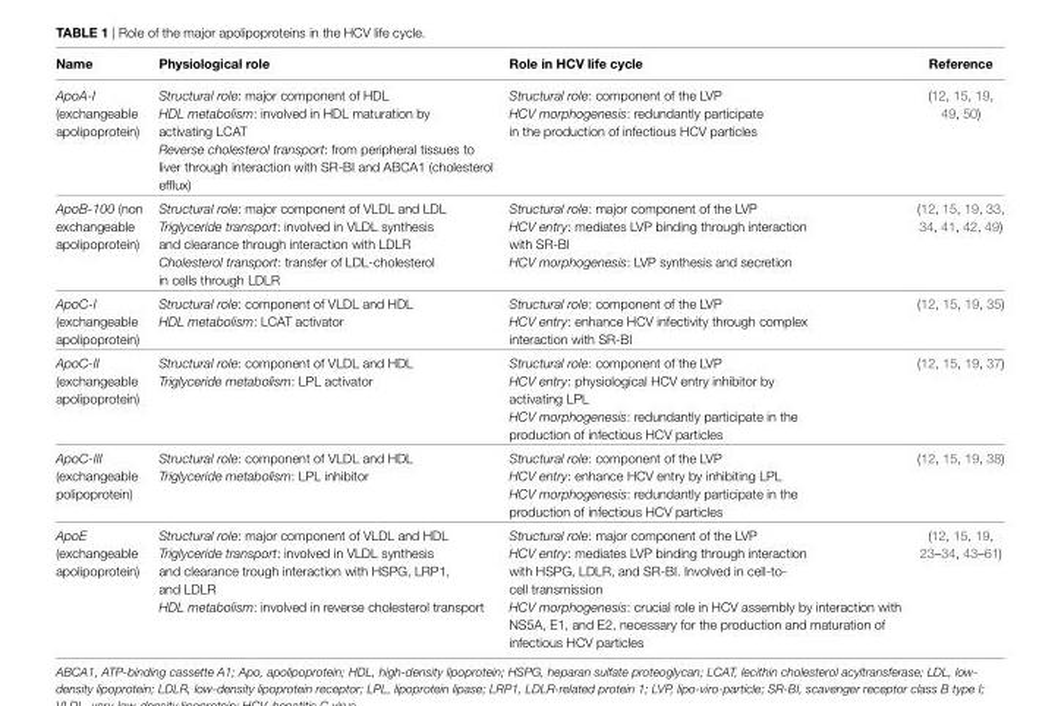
<table><thead><tr><td>Name</td><td>Physiological role</td><td>Role in HCv life cycle</td><td>Reference</td></tr></thead><tbody><tr><td rowspan="3">ApoA-I (exchangeable apolipoprotein)</td><td>Structural role: major component of HDL</td><td>Structural role: component of the LVP</td><td rowspan="3">(12, 15, 19, 49, 50)</td></tr><tr><td>HDL metabolism: involved in HDL maturation by activating LCAT</td><td>HCV morphogenesis: redundantly participate in the production of infectious HCV particles</td></tr><tr><td>Reverse cholesterol transport: from peripheral tissues to liver through interaction with SR-BI and ABCA1 (cholesterol efflux)</td><td></td></tr><tr><td rowspan="3">ApoB-100 (non exchangeable apolipoprotein)</td><td>Structural role: major component of VLDL and LDL</td><td>Structural role: major component of the LVP</td><td rowspan="3">(12, 15, 19, 33, 34, 41, 42, 49)</td></tr><tr><td>Triglyceride transport: involved in VLDL synthesis and clearance through interaction with LDLR</td><td>HCV entry: mediates LVP binding through interaction with SR-BI</td></tr><tr><td>Cholesterol transport: transfer of LDL-cholesterol in cells through LDLR</td><td>HCV morphogenesis: LVP synthesis and secretion</td></tr><tr><td rowspan="2">ApoC-I (exchangeable apolipoprotein)</td><td>Structural role: component of VLDL and HDL</td><td>Structural role: component of the LVP</td><td rowspan="2">(12, 15, 19, 35)</td></tr><tr><td>HDL metabolism: LCAT activator</td><td>HCV entry: enhance HCV infectivity through complex interaction with SR-BI</td></tr><tr><td rowspan="3">ApoC-II (exchangeable apolipoprotein)</td><td>Structural role: component of VLDL and HDL</td><td>Structural role: component of the LVP</td><td rowspan="3">(12, 15, 19, 37)</td></tr><tr><td>Triglyceride metabolism: LPL activator</td><td>HCV entry: physiological HCV entry inhibitor by activating LPL</td></tr><tr><td></td><td>HCV morphogenesis: redundantly participate in the production of infectious HCV particles</td></tr><tr><td rowspan="3">ApoC-III (exchangeable polipoprotein)</td><td>Structural role: component of VLDL and HDL</td><td>Structural role: component of the LVP</td><td rowspan="3">(12, 15, 19, 38)</td></tr><tr><td>Triglyceride metabolism: LPL inhibitor</td><td>HCV entry: enhance HCV entry by inhibiting LPL</td></tr><tr><td></td><td>HCV morphogenesis: redundantly participate in the production of infectious HCV particles</td></tr><tr><td rowspan="3">ApoE (exchangeable apolipoprotein)</td><td>Structural role: major component of VLDL and HDL</td><td>Structural role: major component of the LVP</td><td rowspan="3">(12, 15, 19, 23–34, 43–61)</td></tr><tr><td>Triglyceride transport: involved in VLDL synthesis and clearance trough interaction with HSPG, LRP1, and LDLR</td><td>HCV entry: mediates LVP binding through interaction with HSPG, LDLR, and SR-BI. Involved in cell-to- cell transmission</td></tr><tr><td>HDL metabolism: involved in reverse cholesterol transport</td><td>HCV morphogenesis: crucial role in HCV assembly by interaction with NS5A, E1, and E2, necessary for the production and maturation of infectious HCV particles</td></tr></tbody></table>